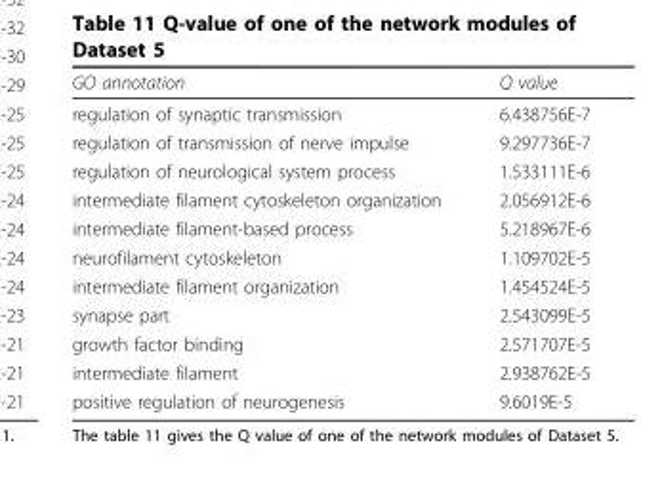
<table><thead><tr><td>GO annotation</td><td>Q value</td></tr></thead><tbody><tr><td>regulation of synaptic transmission</td><td>6.438756E-7</td></tr><tr><td>regulation of transmission of nerve impulse</td><td>9.297736E-7</td></tr><tr><td>regulation of neurological system process</td><td>1.533111E-6</td></tr><tr><td>intermediate filament cytoskeleton organization</td><td>2.056912E-6</td></tr><tr><td>intermediate filament-based process</td><td>5.218967E-6</td></tr><tr><td>neurofilament cytoskeleton</td><td>1.109702E-5</td></tr><tr><td>intermediate filament organization</td><td>1.454524E-5</td></tr><tr><td>synapse part</td><td>2.543099E-5</td></tr><tr><td>growth factor binding</td><td>2.571707E-5</td></tr><tr><td>intermediate filament</td><td>2.938762E-5</td></tr><tr><td>positive regulation of neurogenesis</td><td>9.6019E-5</td></tr></tbody></table>